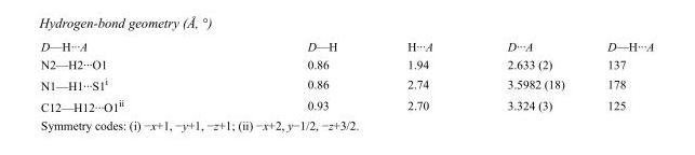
<table><tbody><tr><td>D—H···A</td><td>D—H</td><td>H···A</td><td>D···A</td><td>D—H···A</td></tr><tr><td>N2—H2···O1</td><td>0.86</td><td>1.94</td><td>2.633 (2)</td><td>137</td></tr><tr><td>N1—H1···S1<sup>i</sup></td><td>0.86</td><td>2.74</td><td>3.5982 (18)</td><td>178</td></tr><tr><td>C12—H12···O1<sup>ii</sup></td><td>0.93</td><td>2.70</td><td>3.324 (3)</td><td>125</td></tr></tbody></table>